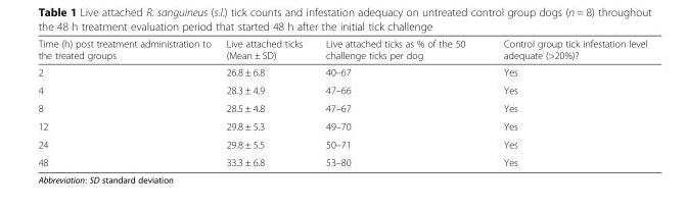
<table><thead><tr><td>Time (h) post treatment administration to the treated groups</td><td>Live attached ticks (Mean ± SD)</td><td>Live attached ticks as % of the 50 challenge ticks per dog</td><td>Control group tick infestation level adequate (&gt;20%)?</td></tr></thead><tbody><tr><td>2</td><td>26.8 ± 6.8</td><td>40–67</td><td>Yes</td></tr><tr><td>4</td><td>28.3 ± 4.9</td><td>47–66</td><td>Yes</td></tr><tr><td>8</td><td>28.5 ± 4.8</td><td>47–67</td><td>Yes</td></tr><tr><td>12</td><td>29.8 ± 5.3</td><td>49–70</td><td>Yes</td></tr><tr><td>24</td><td>29.8 ± 5.5</td><td>50–71</td><td>Yes</td></tr><tr><td>48</td><td>33.3 ± 6.8</td><td>53–80</td><td>Yes</td></tr></tbody></table>